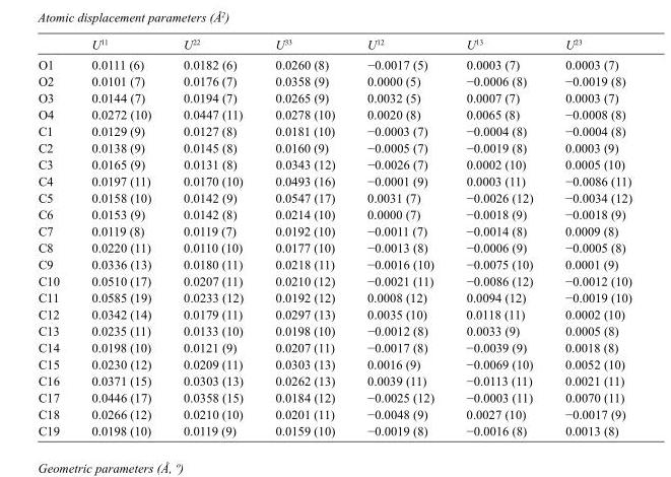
<table><thead><tr><td></td><td>U<sup>11</sup></td><td>U<sup>22</sup></td><td>U<sup>33</sup></td><td>U<sup>12</sup></td><td>U<sup>13</sup></td><td>U<sup>23</sup></td></tr></thead><tbody><tr><td>O1</td><td>0.0111 (6)</td><td>0.0182 (6)</td><td>0.0260 (8)</td><td>−0.0017 (5)</td><td>0.0003 (7)</td><td>0.0003 (7)</td></tr><tr><td>O2</td><td>0.0101 (7)</td><td>0.0176 (7)</td><td>0.0358 (9)</td><td>0.0000 (5)</td><td>−0.0006 (8)</td><td>−0.0019 (8)</td></tr><tr><td>O3</td><td>0.0144 (7)</td><td>0.0194 (7)</td><td>0.0265 (9)</td><td>0.0032 (5)</td><td>0.0007 (7)</td><td>0.0003 (7)</td></tr><tr><td>O4</td><td>0.0272 (10)</td><td>0.0447 (11)</td><td>0.0278 (10)</td><td>0.0020 (8)</td><td>0.0065 (8)</td><td>−0.0008 (8)</td></tr><tr><td>C1</td><td>0.0129 (9)</td><td>0.0127 (8)</td><td>0.0181 (10)</td><td>−0.0003 (7)</td><td>−0.0004 (8)</td><td>−0.0004 (8)</td></tr><tr><td>C2</td><td>0.0138 (9)</td><td>0.0145 (8)</td><td>0.0160 (9)</td><td>−0.0005 (7)</td><td>−0.0019 (8)</td><td>0.0003 (9)</td></tr><tr><td>C3</td><td>0.0165 (9)</td><td>0.0131 (8)</td><td>0.0343 (12)</td><td>−0.0026 (7)</td><td>0.0002 (10)</td><td>0.0005 (10)</td></tr><tr><td>C4</td><td>0.0197 (11)</td><td>0.0170 (10)</td><td>0.0493 (16)</td><td>−0.0001 (9)</td><td>0.0003 (11)</td><td>−0.0086 (11)</td></tr><tr><td>C5</td><td>0.0158 (10)</td><td>0.0142 (9)</td><td>0.0547 (17)</td><td>0.0031 (7)</td><td>−0.0026 (12)</td><td>−0.0034 (12)</td></tr><tr><td>C6</td><td>0.0153 (9)</td><td>0.0142 (8)</td><td>0.0214 (10)</td><td>0.0000 (7)</td><td>−0.0018 (9)</td><td>−0.0018 (9)</td></tr><tr><td>C7</td><td>0.0119 (8)</td><td>0.0119 (7)</td><td>0.0192 (10)</td><td>−0.0011 (7)</td><td>−0.0014 (8)</td><td>0.0009 (8)</td></tr><tr><td>C8</td><td>0.0220 (11)</td><td>0.0110 (10)</td><td>0.0177 (10)</td><td>−0.0013 (8)</td><td>−0.0006 (9)</td><td>−0.0005 (8)</td></tr><tr><td>C9</td><td>0.0336 (13)</td><td>0.0180 (11)</td><td>0.0218 (11)</td><td>−0.0016 (10)</td><td>−0.0075 (10)</td><td>0.0001 (9)</td></tr><tr><td>C10</td><td>0.0510 (17)</td><td>0.0207 (11)</td><td>0.0210 (12)</td><td>−0.0021 (11)</td><td>−0.0086 (12)</td><td>−0.0012 (10)</td></tr><tr><td>C11</td><td>0.0585 (19)</td><td>0.0233 (12)</td><td>0.0192 (12)</td><td>0.0008 (12)</td><td>0.0094 (12)</td><td>−0.0019 (10)</td></tr><tr><td>C12</td><td>0.0342 (14)</td><td>0.0179 (11)</td><td>0.0297 (13)</td><td>0.0035 (10)</td><td>0.0118 (11)</td><td>0.0002 (10)</td></tr><tr><td>C13</td><td>0.0235 (11)</td><td>0.0133 (10)</td><td>0.0198 (10)</td><td>−0.0012 (8)</td><td>0.0033 (9)</td><td>0.0005 (8)</td></tr><tr><td>C14</td><td>0.0198 (10)</td><td>0.0121 (9)</td><td>0.0207 (11)</td><td>−0.0017 (8)</td><td>−0.0039 (9)</td><td>0.0018 (8)</td></tr><tr><td>C15</td><td>0.0230 (12)</td><td>0.0209 (11)</td><td>0.0303 (13)</td><td>0.0016 (9)</td><td>−0.0069 (10)</td><td>0.0052 (10)</td></tr><tr><td>C16</td><td>0.0371 (15)</td><td>0.0303 (13)</td><td>0.0262 (13)</td><td>0.0039 (11)</td><td>−0.0113 (11)</td><td>0.0021 (11)</td></tr><tr><td>C17</td><td>0.0446 (17)</td><td>0.0358 (15)</td><td>0.0184 (12)</td><td>−0.0025 (12)</td><td>−0.0003 (11)</td><td>0.0070 (11)</td></tr><tr><td>C18</td><td>0.0266 (12)</td><td>0.0210 (10)</td><td>0.0201 (11)</td><td>−0.0048 (9)</td><td>0.0027 (10)</td><td>−0.0017 (9)</td></tr><tr><td>C19</td><td>0.0198 (10)</td><td>0.0119 (9)</td><td>0.0159 (10)</td><td>−0.0019 (8)</td><td>−0.0016 (8)</td><td>0.0013 (8)</td></tr></tbody></table>